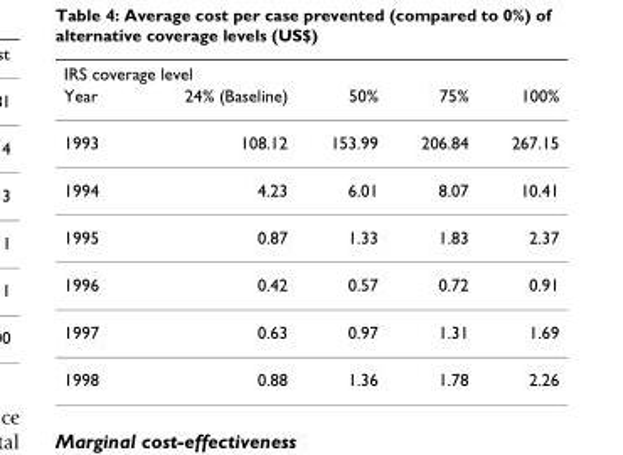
<table><thead><tr><td colspan="5">IRS coverage level</td></tr><tr><td>Year</td><td>24% (Baseline)</td><td>50%</td><td>75%</td><td>100%</td></tr></thead><tbody><tr><td>1993</td><td>108.12</td><td>153.99</td><td>206.84</td><td>267.15</td></tr><tr><td>1994</td><td>4.23</td><td>6.01</td><td>8.07</td><td>10.41</td></tr><tr><td>1995</td><td>0.87</td><td>1.33</td><td>1.83</td><td>2.37</td></tr><tr><td>1996</td><td>0.42</td><td>0.57</td><td>0.72</td><td>0.91</td></tr><tr><td>1997</td><td>0.63</td><td>0.97</td><td>1.31</td><td>1.69</td></tr><tr><td>1998</td><td>0.88</td><td>1.36</td><td>1.78</td><td>2.26</td></tr></tbody></table>